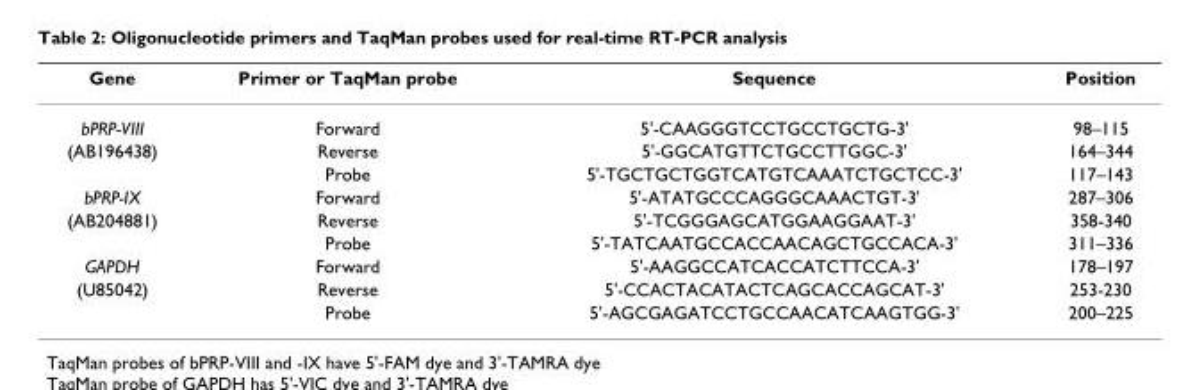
<table><thead><tr><td>Gene</td><td>Primer or TaqMan probe</td><td>Sequence</td><td>Position</td></tr></thead><tbody><tr><td>bPRP-VIII</td><td>Forward</td><td>5&#x27;-CAAGGGTCCTGCCTGCTG-3&#x27;</td><td>98–115</td></tr><tr><td rowspan="2">(AB196438)</td><td>Reverse</td><td>5&#x27;-GGCATGTTCTGCCTTGGC-3&#x27;</td><td>164–344</td></tr><tr><td>Probe</td><td>5&#x27;-TGCTGCTGGTCATGTCAAATCTGCTCC-3&#x27;</td><td>117–143</td></tr><tr><td>bPRP-IX</td><td>Forward</td><td>5&#x27;-ATATGCCCAGGGCAAACTGT-3&#x27;</td><td>287–306</td></tr><tr><td rowspan="2">(AB204881)</td><td>Reverse</td><td>5&#x27;-TCGGGAGCATGGAAGGAAT-3&#x27;</td><td>358-340</td></tr><tr><td>Probe</td><td>5&#x27;-TATCAATGCCACCAACAGCTGCCACA-3&#x27;</td><td>311–336</td></tr><tr><td>GAPDH</td><td>Forward</td><td>5&#x27;-AAGGCCATCACCATCTTCCA-3&#x27;</td><td>178–197</td></tr><tr><td rowspan="2">(U85042)</td><td>Reverse</td><td>5&#x27;-CCACTACATACTCAGCACCAGCAT-3&#x27;</td><td>253-230</td></tr><tr><td>Probe</td><td>5&#x27;-AGCGAGATCCTGCCAACATCAAGTGG-3&#x27;</td><td>200–225</td></tr></tbody></table>